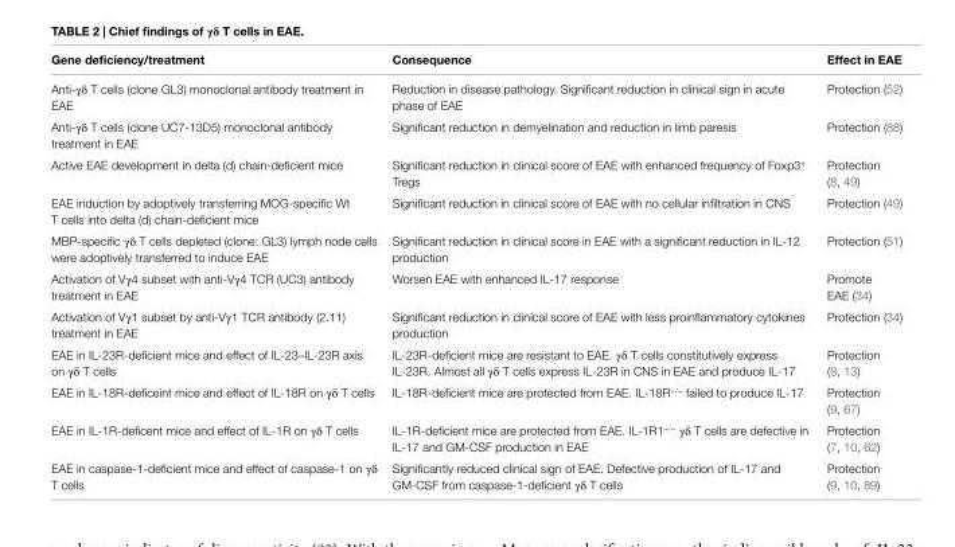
<table><thead><tr><td>Gene deficiency/treatment</td><td>Consequence</td><td>effect in eAe</td></tr></thead><tbody><tr><td>Anti-γδ T cells (clone GL3) monoclonal antibody treatment in EAE</td><td>Reduction in disease pathology. Significant reduction in clinical sign in acute phase of EAE</td><td>Protection (52)</td></tr><tr><td>Anti-γδ T cells (clone UC7-13D5) monoclonal antibody treatment in EAE</td><td>Significant reduction in demyelination and reduction in limb paresis</td><td>Protection (88)</td></tr><tr><td>Active EAE development in delta (d) chain-deficient mice</td><td>Significant reduction in clinical score of EAE with enhanced frequency of Foxp3<sup>+</sup> Tregs</td><td>Protection (8, 49)</td></tr><tr><td>EAE induction by adoptively transferring MOG-specific Wt T cells into delta (d) chain-deficient mice</td><td>Significant reduction in clinical score of EAE with no cellular infiltration in CNS</td><td>Protection (49)</td></tr><tr><td>MBP-specific γδ T cells depleted (clone: GL3) lymph node cells were adoptively transferred to induce EAE</td><td>Significant reduction in clinical score in EAE with a significant reduction in IL-12 production</td><td>Protection (51)</td></tr><tr><td>Activation of Vγ4 subset with anti-Vγ4 TCR (UC3) antibody treatment in EAE</td><td>Worsen EAE with enhanced IL-17 response</td><td>Promote EAE (34)</td></tr><tr><td>Activation of Vγ1 subset by anti-Vγ1 TCR antibody (2.11) treatment in EAE</td><td>Significant reduction in clinical score of EAE with less proinflammatory cytokines production</td><td>Protection (34)</td></tr><tr><td>EAE in IL-23R-deficient mice and effect of IL-23–IL-23R axis on γδ T cells</td><td>IL-23R-deficient mice are resistant to EAE. γδ T cells constitutively express IL-23R. Almost all γδ T cells express IL-23R in CNS in EAE and produce IL-17</td><td>Protection (8, 13)</td></tr><tr><td>EAE in IL-18R-deficeint mice and effect of IL-18R on γδ T cells</td><td>IL-18R-deficient mice are protected from EAE. IL-18R<sup>−/−</sup> failed to produce IL-17</td><td>Protection (9, 67)</td></tr><tr><td>EAE in IL-1R-deficent mice and effect of IL-1R on γδ T cells</td><td>IL-1R-deficient mice are protected from EAE. IL-1R1<sup>−/−</sup> γδ T cells are defective in IL-17 and GM-CSF production in EAE</td><td>Protection (7, 10, 62)</td></tr><tr><td>EAE in caspase-1-deficient mice and effect of caspase-1 on γδ T cells</td><td>Significantly reduced clinical sign of EAE. Defective production of IL-17 and GM-CSF from caspase-1-deficient γδ T cells</td><td>Protection (9, 10, 89)</td></tr></tbody></table>